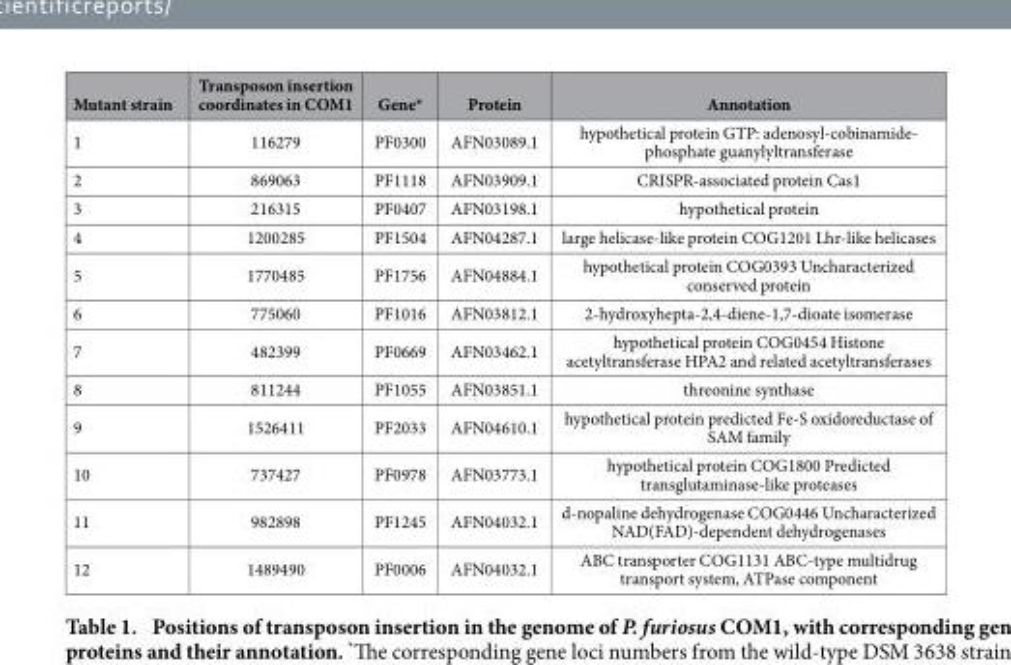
<table><thead><tr><td>Mutant strain</td><td>Transposon insertion coordinates in COM1</td><td>Gene*</td><td>Protein</td><td>Annotation</td></tr></thead><tbody><tr><td>1</td><td>116279</td><td>PF0300</td><td>AFN03089.1</td><td>hypothetical protein GTP: adenosyl-cobinamide- phosphate guanylyltransferase</td></tr><tr><td>2</td><td>869063</td><td>PF1118</td><td>AFN03909.1</td><td>CRISPR-associated protein Cas1</td></tr><tr><td>3</td><td>216315</td><td>PF0407</td><td>AFN03198.1</td><td>hypothetical protein</td></tr><tr><td>4</td><td>1200285</td><td>PF1504</td><td>AFN04287.1</td><td>large helicase-like protein COG1201 Lhr-like helicases</td></tr><tr><td>5</td><td>1770485</td><td>PF1756</td><td>AFN04884.1</td><td>hypothetical protein COG0393 Uncharacterized conserved protein</td></tr><tr><td>6</td><td>775060</td><td>PF1016</td><td>AFN03812.1</td><td>2-hydroxyhepta-2,4-diene-1,7-dioate isomerase</td></tr><tr><td>7</td><td>482399</td><td>PF0669</td><td>AFN03462.1</td><td>hypothetical protein COG0454 Histone acetyltransferase HPA2 and related acetyltransferases</td></tr><tr><td>8</td><td>811244</td><td>PF1055</td><td>AFN03851.1</td><td>threonine synthase</td></tr><tr><td>9</td><td>1526411</td><td>PF2033</td><td>AFN04610.1</td><td>hypothetical protein predicted Fe-S oxidoreductase of SAM family</td></tr><tr><td>10</td><td>737427</td><td>PF0978</td><td>AFN03773.1</td><td>hypothetical protein COG1800 Predicted transglutaminase-like proteases</td></tr><tr><td>11</td><td>982898</td><td>PF1245</td><td>AFN04032.1</td><td>d-nopaline dehydrogenase COG0446 Uncharacterized NAD(FAD)-dependent dehydrogenases</td></tr><tr><td>12</td><td>1489490</td><td>PF0006</td><td>AFN04032.1</td><td>ABC transporter COG1131 ABC-type multidrug transport system, ATPase component</td></tr></tbody></table>